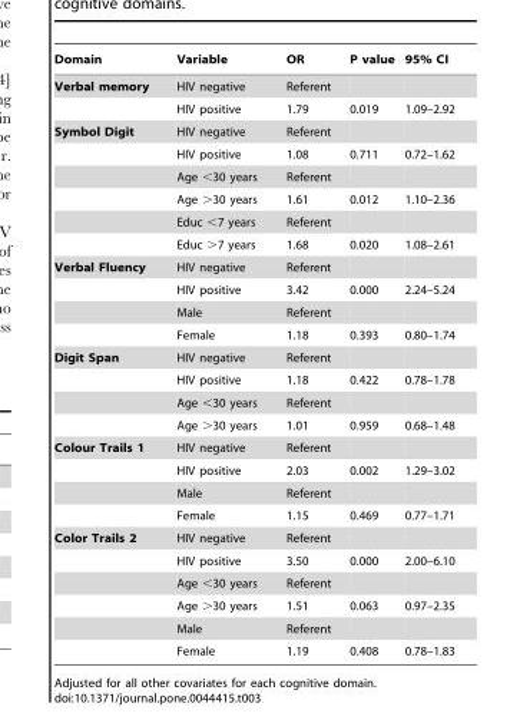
<table><thead><tr><td>Domain</td><td>Variable</td><td>OR</td><td>P value</td><td>95% CI</td></tr></thead><tbody><tr><td rowspan="2">Verbal memory</td><td>HIV negative</td><td>Referent</td><td></td><td></td></tr><tr><td>HIV positive</td><td>1.79</td><td>0.019</td><td>1.09–2.92</td></tr><tr><td rowspan="6">Symbol Digit</td><td>HIV negative</td><td>Referent</td><td></td><td></td></tr><tr><td>HIV positive</td><td>1.08</td><td>0.711</td><td>0.72–1.62</td></tr><tr><td>Age &lt;30 years</td><td>Referent</td><td></td><td></td></tr><tr><td>Age &gt;30 years</td><td>1.61</td><td>0.012</td><td>1.10–2.36</td></tr><tr><td>Educ &lt;7 years</td><td>Referent</td><td></td><td></td></tr><tr><td>Educ &gt;7 years</td><td>1.68</td><td>0.020</td><td>1.08–2.61</td></tr><tr><td rowspan="4">Verbal Fluency</td><td>HIV negative</td><td>Referent</td><td></td><td></td></tr><tr><td>HIV positive</td><td>3.42</td><td>0.000</td><td>2.24–5.24</td></tr><tr><td>Male</td><td>Referent</td><td></td><td></td></tr><tr><td>Female</td><td>1.18</td><td>0.393</td><td>0.80–1.74</td></tr><tr><td rowspan="4">Digit Span</td><td>HIV negative</td><td>Referent</td><td></td><td></td></tr><tr><td>HIV positive</td><td>1.18</td><td>0.422</td><td>0.78–1.78</td></tr><tr><td>Age &lt;30 years</td><td>Referent</td><td></td><td></td></tr><tr><td>Age &gt;30 years</td><td>1.01</td><td>0.959</td><td>0.68–1.48</td></tr><tr><td rowspan="4">Colour Trails 1</td><td>HIV negative</td><td>Referent</td><td></td><td></td></tr><tr><td>HIV positive</td><td>2.03</td><td>0.002</td><td>1.29–3.02</td></tr><tr><td>Male</td><td>Referent</td><td></td><td></td></tr><tr><td>Female</td><td>1.15</td><td>0.469</td><td>0.77–1.71</td></tr><tr><td rowspan="6">Color Trails 2</td><td>HIV negative</td><td>Referent</td><td></td><td></td></tr><tr><td>HIV positive</td><td>3.50</td><td>0.000</td><td>2.00–6.10</td></tr><tr><td>Age &lt;30 years</td><td>Referent</td><td></td><td></td></tr><tr><td>Age &gt;30 years</td><td>1.51</td><td>0.063</td><td>0.97–2.35</td></tr><tr><td>Male</td><td>Referent</td><td></td><td></td></tr><tr><td>Female</td><td>1.19</td><td>0.408</td><td>0.78–1.83</td></tr></tbody></table>